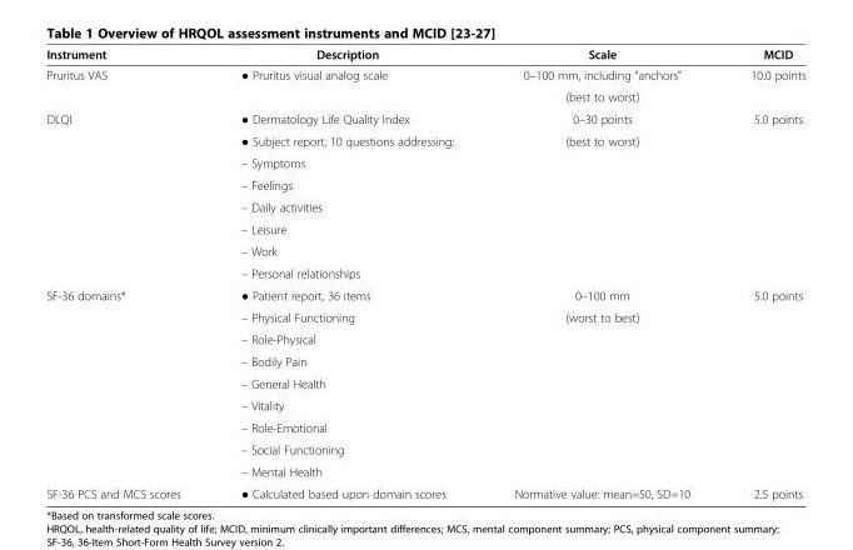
<table><thead><tr><td>Instrument</td><td>Description</td><td>Scale</td><td>MCID</td></tr></thead><tbody><tr><td rowspan="2">Pruritus VAS</td><td rowspan="2">● Pruritus visual analog scale</td><td>0–100 mm, including “anchors”</td><td rowspan="2">10.0 points</td></tr><tr><td>(best to worst)</td></tr><tr><td rowspan="8">DLQI</td><td>● Dermatology Life Quality Index</td><td>0–30 points</td><td rowspan="8">5.0 points</td></tr><tr><td>● Subject report, 10 questions addressing:</td><td rowspan="7">(best to worst)</td></tr><tr><td>– Symptoms</td></tr><tr><td>– Feelings</td></tr><tr><td>– Daily activities</td></tr><tr><td>– Leisure</td></tr><tr><td>– Work</td></tr><tr><td>– Personal relationships</td></tr><tr><td rowspan="9">SF-36 domains*</td><td>● Patient report, 36 items</td><td>0–100 mm</td><td rowspan="9">5.0 points</td></tr><tr><td>– Physical Functioning</td><td rowspan="8">(worst to best)</td></tr><tr><td>– Role-Physical</td></tr><tr><td>– Bodily Pain</td></tr><tr><td>– General Health</td></tr><tr><td>– Vitality</td></tr><tr><td>– Role-Emotional</td></tr><tr><td>– Social Functioning</td></tr><tr><td>– Mental Health</td></tr><tr><td>SF-36 PCS and MCS scores</td><td>● Calculated based upon domain scores</td><td>Normative value: mean=50, SD=10</td><td>2.5 points</td></tr></tbody></table>